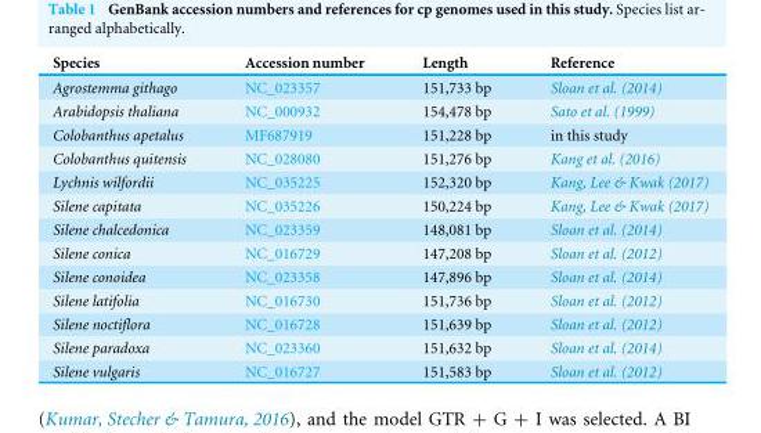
<table><thead><tr><td>Species</td><td>Accession number</td><td>Length</td><td>Reference</td></tr></thead><tbody><tr><td>Agrostemma githago</td><td>NC_023357</td><td>151,733 bp</td><td>Sloan et al. (2014)</td></tr><tr><td>Arabidopsis thaliana</td><td>NC_000932</td><td>154,478 bp</td><td>Sato et al. (1999)</td></tr><tr><td>Colobanthus apetalus</td><td>MF687919</td><td>151,228 bp</td><td>in this study</td></tr><tr><td>Colobanthus quitensis</td><td>NC_028080</td><td>151,276 bp</td><td>Kang et al. (2016)</td></tr><tr><td>Lychnis wilfordii</td><td>NC_035225</td><td>152,320 bp</td><td>Kang, Lee &amp; Kwak (2017)</td></tr><tr><td>Silene capitata</td><td>NC_035226</td><td>150,224 bp</td><td>Kang, Lee &amp; Kwak (2017)</td></tr><tr><td>Silene chalcedonica</td><td>NC_023359</td><td>148,081 bp</td><td>Sloan et al. (2014)</td></tr><tr><td>Silene conica</td><td>NC_016729</td><td>147,208 bp</td><td>Sloan et al. (2012)</td></tr><tr><td>Silene conoidea</td><td>NC_023358</td><td>147,896 bp</td><td>Sloan et al. (2014)</td></tr><tr><td>Silene latifolia</td><td>NC_016730</td><td>151,736 bp</td><td>Sloan et al. (2012)</td></tr><tr><td>Silene noctiflora</td><td>NC_016728</td><td>151,639 bp</td><td>Sloan et al. (2012)</td></tr><tr><td>Silene paradoxa</td><td>NC_023360</td><td>151,632 bp</td><td>Sloan et al. (2014)</td></tr><tr><td>Silene vulgaris</td><td>NC_016727</td><td>151,583 bp</td><td>Sloan et al. (2012)</td></tr></tbody></table>